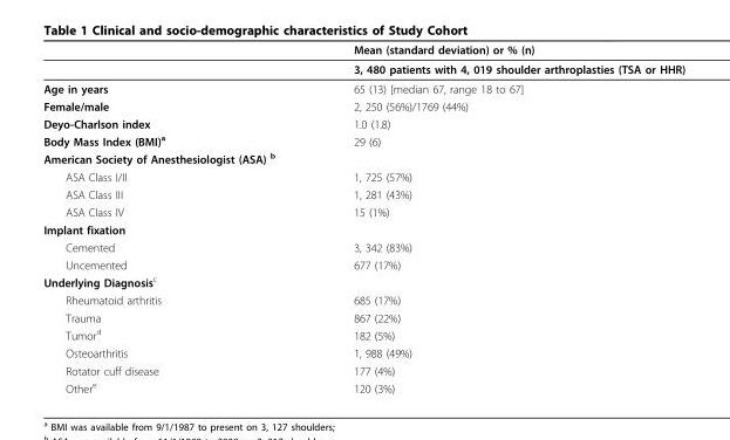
<table><thead><tr><td></td><td>Mean (standard deviation) or % (n)</td></tr></thead><tbody><tr><td></td><td>3, 480 patients with 4, 019 shoulder arthroplasties (TSA or HHR)</td></tr><tr><td>Age in years</td><td>65 (13) [median 67, range 18 to 67]</td></tr><tr><td>Female/male</td><td>2, 250 (56%)/1769 (44%)</td></tr><tr><td>Deyo-Charlson index</td><td>1.0 (1.8)</td></tr><tr><td>Body Mass Index (BMI)<sup>a</sup></td><td>29 (6)</td></tr><tr><td colspan="2">American Society of Anesthesiologist (ASA) <sup>b</sup></td></tr><tr><td>ASA Class I/II</td><td>1, 725 (57%)</td></tr><tr><td>ASA Class III</td><td>1, 281 (43%)</td></tr><tr><td>ASA Class IV</td><td>15 (1%)</td></tr><tr><td colspan="2">Implant fixation</td></tr><tr><td>Cemented</td><td>3, 342 (83%)</td></tr><tr><td>Uncemented</td><td>677 (17%)</td></tr><tr><td colspan="2">Underlying Diagnosis<sup>c</sup></td></tr><tr><td>Rheumatoid arthritis</td><td>685 (17%)</td></tr><tr><td>Trauma</td><td>867 (22%)</td></tr><tr><td>Tumor<sup>d</sup></td><td>182 (5%)</td></tr><tr><td>Osteoarthritis</td><td>1, 988 (49%)</td></tr><tr><td>Rotator cuff disease</td><td>177 (4%)</td></tr><tr><td>Other<sup>e</sup></td><td>120 (3%)</td></tr></tbody></table>